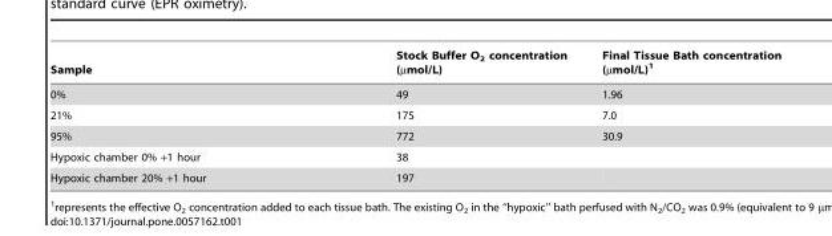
<table><thead><tr><td>Sample</td><td>Stock Buffer O<sub>2</sub> concentration (µmol/L)</td><td>Final Tissue Bath concentration (µmol/L)<sup>1</sup></td></tr></thead><tbody><tr><td>0%</td><td>49</td><td>1.96</td></tr><tr><td>21%</td><td>175</td><td>7.0</td></tr><tr><td>95%</td><td>772</td><td>30.9</td></tr><tr><td>Hypoxic chamber 0% +1 hour</td><td>38</td><td></td></tr><tr><td>Hypoxic chamber 20% +1 hour</td><td>197</td><td></td></tr></tbody></table>